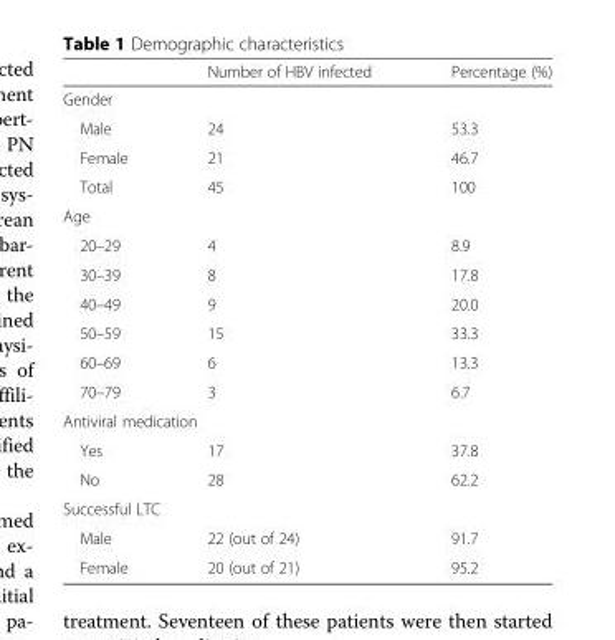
<table><thead><tr><td></td><td>Number of HBV infected</td><td>Percentage (%)</td></tr></thead><tbody><tr><td colspan="3">Gender</td></tr><tr><td>Male</td><td>24</td><td>53.3</td></tr><tr><td>Female</td><td>21</td><td>46.7</td></tr><tr><td>Total</td><td>45</td><td>100</td></tr><tr><td colspan="3">Age</td></tr><tr><td>20–29</td><td>4</td><td>8.9</td></tr><tr><td>30–39</td><td>8</td><td>17.8</td></tr><tr><td>40–49</td><td>9</td><td>20.0</td></tr><tr><td>50–59</td><td>15</td><td>33.3</td></tr><tr><td>60–69</td><td>6</td><td>13.3</td></tr><tr><td>70–79</td><td>3</td><td>6.7</td></tr><tr><td colspan="3">Antiviral medication</td></tr><tr><td>Yes</td><td>17</td><td>37.8</td></tr><tr><td>No</td><td>28</td><td>62.2</td></tr><tr><td colspan="3">Successful LTC</td></tr><tr><td>Male</td><td>22 (out of 24)</td><td>91.7</td></tr><tr><td>Female</td><td>20 (out of 21)</td><td>95.2</td></tr></tbody></table>